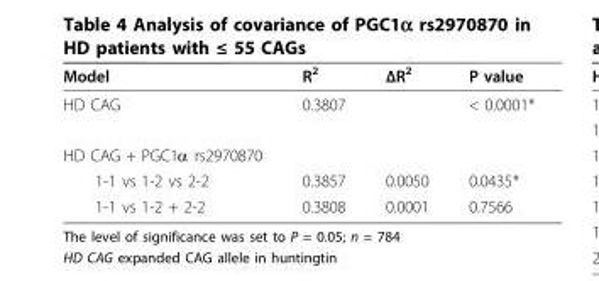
<table><thead><tr><td>Model</td><td>R<sup>2</sup></td><td>ΔR<sup>2</sup></td><td>P value</td></tr></thead><tbody><tr><td>HD CAG</td><td>0.3807</td><td></td><td>&lt; 0.0001*</td></tr><tr><td colspan="4">HD CAG + PGC1α rs2970870</td></tr><tr><td>1-1 vs 1-2 vs 2-2</td><td>0.3857</td><td>0.0050</td><td>0.0435*</td></tr><tr><td>1-1 vs 1-2 + 2-2</td><td>0.3808</td><td>0.0001</td><td>0.7566</td></tr></tbody></table>